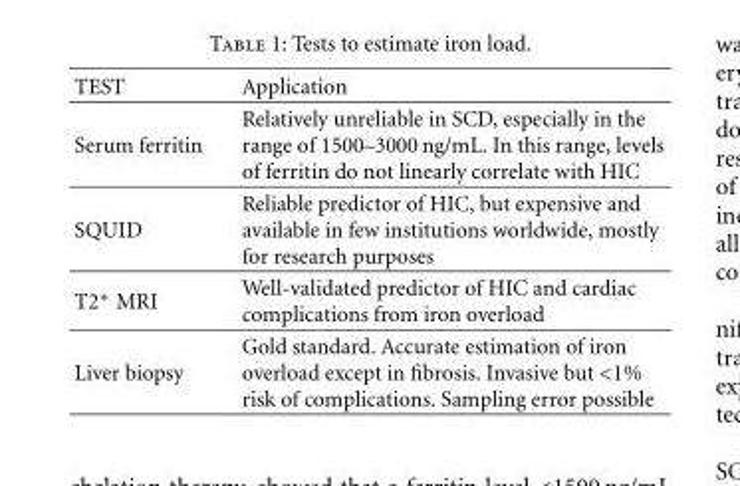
<table><thead><tr><td>TEST</td><td>Application</td></tr></thead><tbody><tr><td>Serum ferritin</td><td>Relatively unreliable in SCD, especially in the range of 1500–3000 ng/mL. In this range, levels of ferritin do not linearly correlate with HIC</td></tr><tr><td>SQUID</td><td>Reliable predictor of HIC, but expensive and available in few institutions worldwide, mostly for research purposes</td></tr><tr><td>T2∗ MRI</td><td>Well-validated predictor of HIC and cardiac complications from iron overload</td></tr><tr><td>Liver biopsy</td><td>Gold standard. Accurate estimation of iron overload except in fibrosis. Invasive but &lt;1% risk of complications. Sampling error possible</td></tr></tbody></table>